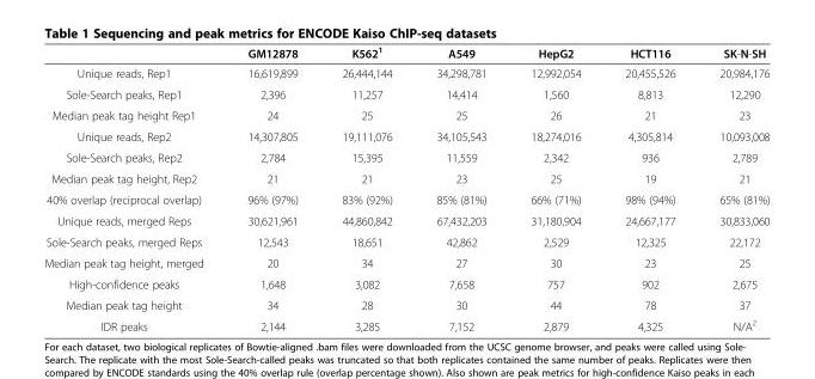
<table><thead><tr><td></td><td>GM12878</td><td>K562<sup>1</sup></td><td>A549</td><td>HepG2</td><td>HCT116</td><td>SK-N-SH</td></tr></thead><tbody><tr><td>Unique reads, Rep1</td><td>16,619,899</td><td>26,444,144</td><td>34,298,781</td><td>12,992,054</td><td>20,455,526</td><td>20,984,176</td></tr><tr><td>Sole-Search peaks, Rep1</td><td>2,396</td><td>11,257</td><td>14,414</td><td>1,560</td><td>8,813</td><td>12,290</td></tr><tr><td>Median peak tag height Rep1</td><td>24</td><td>25</td><td>25</td><td>26</td><td>21</td><td>23</td></tr><tr><td>Unique reads, Rep2</td><td>14,307,805</td><td>19,111,076</td><td>34,105,543</td><td>18,274,016</td><td>4,305,814</td><td>10,093,008</td></tr><tr><td>Sole-Search peaks, Rep2</td><td>2,784</td><td>15,395</td><td>11,559</td><td>2,342</td><td>936</td><td>2,789</td></tr><tr><td>Median peak tag height, Rep2</td><td>21</td><td>21</td><td>23</td><td>25</td><td>19</td><td>21</td></tr><tr><td>40% overlap (reciprocal overlap)</td><td>96% (97%)</td><td>83% (92%)</td><td>85% (81%)</td><td>66% (71%)</td><td>98% (94%)</td><td>65% (81%)</td></tr><tr><td>Unique reads, merged Reps</td><td>30,621,961</td><td>44,860,842</td><td>67,432,203</td><td>31,180,904</td><td>24,667,177</td><td>30,833,060</td></tr><tr><td>Sole-Search peaks, merged Reps</td><td>12,543</td><td>18,651</td><td>42,862</td><td>2,529</td><td>12,325</td><td>22,172</td></tr><tr><td>Median peak tag height, merged</td><td>20</td><td>34</td><td>27</td><td>30</td><td>23</td><td>25</td></tr><tr><td>High-confidence peaks</td><td>1,648</td><td>3,082</td><td>7,658</td><td>757</td><td>902</td><td>2,675</td></tr><tr><td>Median peak tag height</td><td>34</td><td>28</td><td>30</td><td>44</td><td>78</td><td>37</td></tr><tr><td>IDR peaks</td><td>2,144</td><td>3,285</td><td>7,152</td><td>2,879</td><td>4,325</td><td>N/A<sup>2</sup></td></tr></tbody></table>